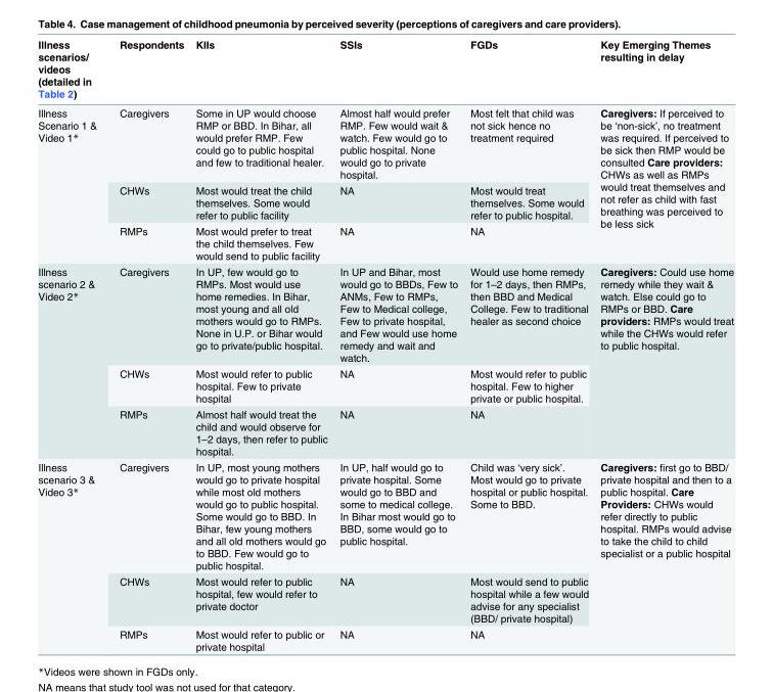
<table><thead><tr><td>Illness scenarios/ videos (detailed in Table 2)</td><td>Respondents</td><td>KIIs</td><td>SSIs</td><td>FGDs</td><td>Key Emerging Themes resulting in delay</td></tr></thead><tbody><tr><td rowspan="3">Illness Scenario 1 &amp; Video 1*</td><td>Caregivers</td><td>Some in UP would choose RMP or BBD. In Bihar, all would prefer RMP. Few could go to public hospital and few to traditional healer.</td><td>Almost half would prefer RMP. Few would wait &amp; watch. Few would go to public hospital. None would go to private hospital.</td><td>Most felt that child was not sick hence no treatment required</td><td rowspan="3">Caregivers: If perceived to be ‘non-sick’, no treatment was required. If perceived to be sick then RMP would be consulted Care providers: CHWs as well as RMPs would treat themselves and not refer as child with fast breathing was perceived to be less sick</td></tr><tr><td>CHWs</td><td>Most would treat the child themselves. Some would refer to public facility</td><td>NA</td><td>Most would treat themselves. Some would refer to public hospital.</td></tr><tr><td>RMPs</td><td>Most would prefer to treat the child themselves. Few would send to public facility</td><td>NA</td><td>NA</td></tr><tr><td rowspan="3">Illness scenario 2 &amp; Video 2*</td><td>Caregivers</td><td>In UP, few would go to RMPs. Most would use home remedies. In Bihar, most young and all old mothers would go to RMPs. None in U.P. or Bihar would go to private/public hospital.</td><td>In UP and Bihar, most would go to BBDs, Few to ANMs, Few to RMPs, Few to Medical college, Few to private hospital, and Few would use home remedy and wait and watch.</td><td>Would use home remedy for 1–2 days, then RMPs, then BBD and Medical College. Few to traditional healer as second choice</td><td rowspan="3">Caregivers: Could use home remedy while they wait &amp; watch. Else could go to RMPs or BBD. Care providers: RMPs would treat while the CHWs would refer to public hospital.</td></tr><tr><td>CHWs</td><td>Most would refer to public hospital. Few to private hospital</td><td>NA</td><td>Most would refer to public hospital. Few to higher private or public hospital.</td></tr><tr><td>RMPs</td><td>Almost half would treat the child and would observe for 1–2 days, then refer to public hospital.</td><td>NA</td><td>NA</td></tr><tr><td rowspan="3">Illness scenario 3 &amp; Video 3*</td><td>Caregivers</td><td>In UP, most young mothers would go to private hospital while most old mothers would go to public hospital. Some would go to BBD. In Bihar, few young mothers and all old mothers would go to BBD. Few would go to public hospital.</td><td>In UP, half would go to private hospital. Some would go to BBD and some to medical college. In Bihar most would go to BBD, some would go to public hospital.</td><td>Child was ‘very sick’. Most would go to private hospital or public hospital. Some to BBD.</td><td rowspan="3">Caregivers: first go to BBD/ private hospital and then to a public hospital. Care Providers: CHWs would refer directly to public hospital. RMPs would advise to take the child to child specialist or a public hospital</td></tr><tr><td>CHWs</td><td>Most would refer to public hospital, few would refer to private doctor</td><td>NA</td><td>Most would send to public hospital while a few would advise for any specialist (BBD/ private hospital)</td></tr><tr><td>RMPs</td><td>Most would refer to public or private hospital</td><td>NA</td><td>NA</td></tr></tbody></table>